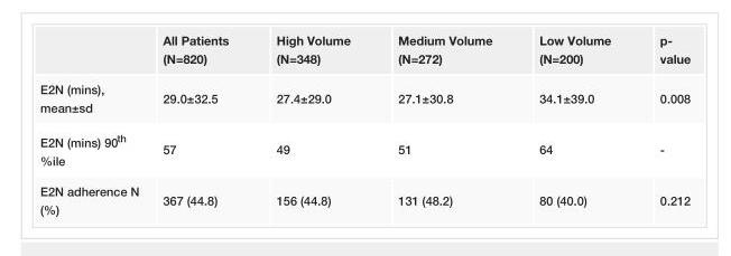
<table><thead><tr><td></td><td>All Patients (N=820)</td><td>High Volume (N=348)</td><td>Medium Volume (N=272)</td><td>Low Volume (N=200)</td><td>p- value</td></tr></thead><tbody><tr><td>E2N (mins), mean±sd</td><td>29.0±32.5</td><td>27.4±29.0</td><td>27.1±30.8</td><td>34.1±39.0</td><td>0.008</td></tr><tr><td>E2N (mins) 90<sup>th</sup> %ile</td><td>57</td><td>49</td><td>51</td><td>64</td><td>-</td></tr><tr><td>E2N adherence N (%)</td><td>367 (44.8)</td><td>156 (44.8)</td><td>131 (48.2)</td><td>80 (40.0)</td><td>0.212</td></tr></tbody></table>